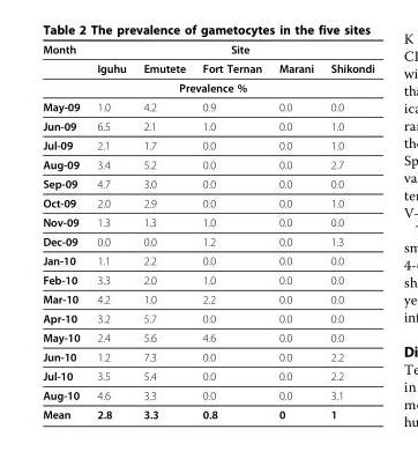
<table><thead><tr><td rowspan="2">Month</td><td colspan="5">Site</td></tr><tr><td>Iguhu</td><td>Emutete</td><td>Fort Ternan</td><td>Marani</td><td>Shikondi</td></tr></thead><tbody><tr><td colspan="6">Prevalence %</td></tr><tr><td>May-09</td><td>1.0</td><td>4.2</td><td>0.9</td><td>0.0</td><td>0.0</td></tr><tr><td>Jun-09</td><td>6.5</td><td>2.1</td><td>1.0</td><td>0.0</td><td>1.0</td></tr><tr><td>Jul-09</td><td>2.1</td><td>1.7</td><td>0.0</td><td>0.0</td><td>1.0</td></tr><tr><td>Aug-09</td><td>3.4</td><td>5.2</td><td>0.0</td><td>0.0</td><td>2.7</td></tr><tr><td>Sep-09</td><td>4.7</td><td>3.0</td><td>0.0</td><td>0.0</td><td>0.0</td></tr><tr><td>Oct-09</td><td>2.0</td><td>2.9</td><td>0.0</td><td>0.0</td><td>1.0</td></tr><tr><td>Nov-09</td><td>1.3</td><td>1.3</td><td>1.0</td><td>0.0</td><td>0.0</td></tr><tr><td>Dec-09</td><td>0.0</td><td>0.0</td><td>1.2</td><td>0.0</td><td>1.3</td></tr><tr><td>Jan-10</td><td>1.1</td><td>2.2</td><td>0.0</td><td>0.0</td><td>0.0</td></tr><tr><td>Feb-10</td><td>3.3</td><td>2.0</td><td>1.0</td><td>0.0</td><td>0.0</td></tr><tr><td>Mar-10</td><td>4.2</td><td>1.0</td><td>2.2</td><td>0.0</td><td>0.0</td></tr><tr><td>Apr-10</td><td>3.2</td><td>5.7</td><td>0.0</td><td>0.0</td><td>0.0</td></tr><tr><td>May-10</td><td>2.4</td><td>5.6</td><td>4.6</td><td>0.0</td><td>0.0</td></tr><tr><td>Jun-10</td><td>1.2</td><td>7.3</td><td>0.0</td><td>0.0</td><td>2.2</td></tr><tr><td>Jul-10</td><td>3.5</td><td>5.4</td><td>0.0</td><td>0.0</td><td>2.2</td></tr><tr><td>Aug-10</td><td>4.6</td><td>3.3</td><td>0.0</td><td>0.0</td><td>3.1</td></tr><tr><td>Mean</td><td>2.8</td><td>3.3</td><td>0.8</td><td>0</td><td>1</td></tr></tbody></table>